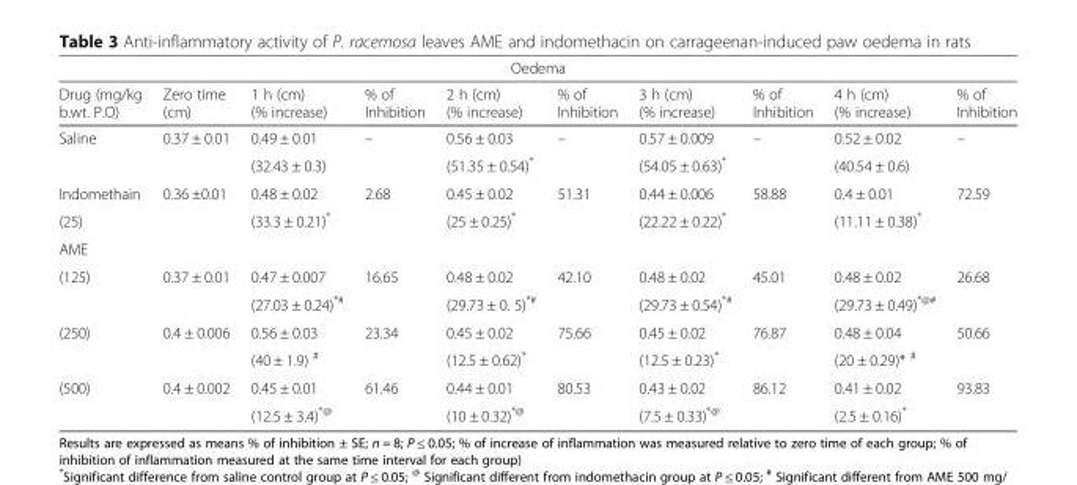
<table><thead><tr><td colspan="10">Oedema</td></tr><tr><td>Drug (mg/kg b.wt. P.O)</td><td>Zero time (cm)</td><td>1 h (cm) (% increase)</td><td>% of Inhibition</td><td>2 h (cm) (% increase)</td><td>% of Inhibition</td><td>3 h (cm) (% increase)</td><td>% of Inhibition</td><td>4 h (cm) (% increase)</td><td>% of Inhibition</td></tr></thead><tbody><tr><td rowspan="2">Saline</td><td>0.37 ± 0.01</td><td>0.49 ± 0.01</td><td>–</td><td>0.56 ± 0.03</td><td>–</td><td>0.57 ± 0.009</td><td>–</td><td>0.52 ± 0.02</td><td>–</td></tr><tr><td></td><td>(32.43 ± 0.3)</td><td></td><td>(51.35 ± 0.54)*</td><td></td><td>(54.05 ± 0.63)*</td><td></td><td>(40.54 ± 0.6)</td><td></td></tr><tr><td>Indomethain</td><td>0.36 ±0.01</td><td>0.48 ± 0.02</td><td>2.68</td><td>0.45 ± 0.02</td><td>51.31</td><td>0.44 ± 0.006</td><td>58.88</td><td>0.4 ± 0.01</td><td>72.59</td></tr><tr><td>(25)</td><td></td><td>(33.3 ± 0.21)*</td><td></td><td>(25 ± 0.25)*</td><td></td><td>(22.22 ± 0.22)*</td><td></td><td>(11.11 ± 0.38)*</td><td></td></tr><tr><td colspan="10">AME</td></tr><tr><td rowspan="2">(125)</td><td>0.37 ± 0.01</td><td>0.47 ± 0.007</td><td>16.65</td><td>0.48 ± 0.02</td><td>42.10</td><td>0.48 ± 0.02</td><td>45.01</td><td>0.48 ± 0.02</td><td>26.68</td></tr><tr><td></td><td>(27.03 ± 0.24)<sup>*#</sup></td><td></td><td>(29.73 ± 0. 5)<sup>*#</sup></td><td></td><td>(29.73 ± 0.54)<sup>*#</sup></td><td></td><td>(29.73 ± 0.49)<sup>*@#</sup></td><td></td></tr><tr><td rowspan="2">(250)</td><td>0.4 ± 0.006</td><td>0.56 ± 0.03</td><td>23.34</td><td>0.45 ± 0.02</td><td>75.66</td><td>0.45 ± 0.02</td><td>76.87</td><td>0.48 ± 0.04</td><td>50.66</td></tr><tr><td></td><td>(40 ± 1.9) <sup>#</sup></td><td></td><td>(12.5 ± 0.62)*</td><td></td><td>(12.5 ± 0.23)*</td><td></td><td>(20 ± 0.29)* <sup>#</sup></td><td></td></tr><tr><td rowspan="2">(500)</td><td>0.4 ± 0.002</td><td>0.45 ± 0.01</td><td>61.46</td><td>0.44 ± 0.01</td><td>80.53</td><td>0.43 ± 0.02</td><td>86.12</td><td>0.41 ± 0.02</td><td>93.83</td></tr><tr><td></td><td>(12.5 ± 3.4)<sup>*@</sup></td><td></td><td>(10 ± 0.32)<sup>*@</sup></td><td></td><td>(7.5 ± 0.33)<sup>*@</sup></td><td></td><td>(2.5 ± 0.16)*</td><td></td></tr></tbody></table>